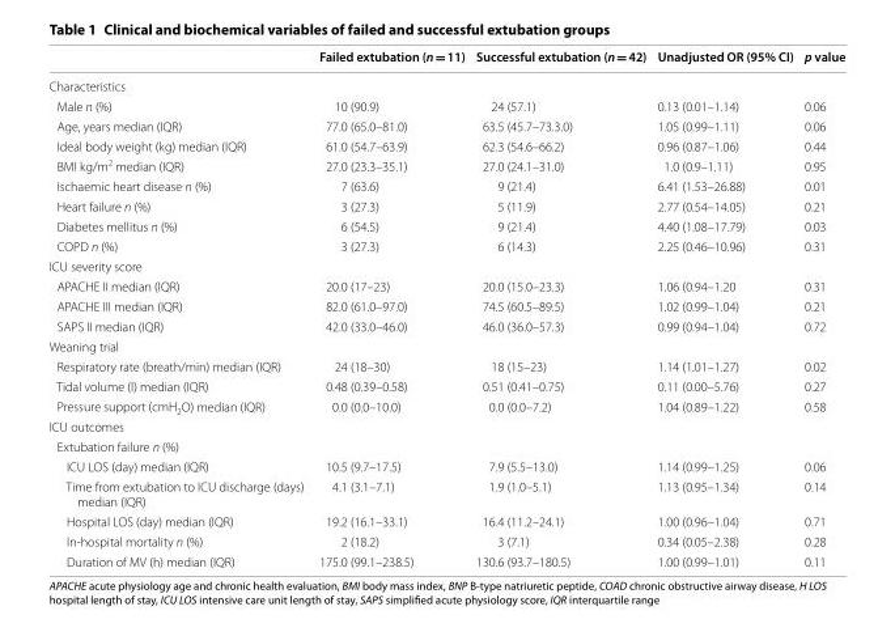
<table><thead><tr><td></td><td>Failed extubation (n = 11)</td><td>Successful extubation (n = 42)</td><td>Unadjusted OR (95% CI)</td><td>p value</td></tr></thead><tbody><tr><td colspan="5">Characteristics</td></tr><tr><td>Male n (%)</td><td>10 (90.9)</td><td>24 (57.1)</td><td>0.13 (0.01–1.14)</td><td>0.06</td></tr><tr><td>Age, years median (IQR)</td><td>77.0 (65.0–81.0)</td><td>63.5 (45.7–73.3.0)</td><td>1.05 (0.99–1.11)</td><td>0.06</td></tr><tr><td>Ideal body weight (kg) median (IQR)</td><td>61.0 (54.7–63.9)</td><td>62.3 (54.6–66.2)</td><td>0.96 (0.87–1.06)</td><td>0.44</td></tr><tr><td>BMI kg/m<sup>2</sup> median (IQR)</td><td>27.0 (23.3–35.1)</td><td>27.0 (24.1–31.0)</td><td>1.0 (0.9–1.11)</td><td>0.95</td></tr><tr><td>Ischaemic heart disease n (%)</td><td>7 (63.6)</td><td>9 (21.4)</td><td>6.41 (1.53–26.88)</td><td>0.01</td></tr><tr><td>Heart failure n (%)</td><td>3 (27.3)</td><td>5 (11.9)</td><td>2.77 (0.54–14.05)</td><td>0.21</td></tr><tr><td>Diabetes mellitus n (%)</td><td>6 (54.5)</td><td>9 (21.4)</td><td>4.40 (1.08–17.79)</td><td>0.03</td></tr><tr><td>COPD n (%)</td><td>3 (27.3)</td><td>6 (14.3)</td><td>2.25 (0.46–10.96)</td><td>0.31</td></tr><tr><td colspan="5">ICU severity score</td></tr><tr><td>APACHE II median (IQR)</td><td>20.0 (17–23)</td><td>20.0 (15.0–23.3)</td><td>1.06 (0.94–1.20</td><td>0.31</td></tr><tr><td>APACHE III median (IQR)</td><td>82.0 (61.0–97.0)</td><td>74.5 (60.5–89.5)</td><td>1.02 (0.99–1.04)</td><td>0.21</td></tr><tr><td>SAPS II median (IQR)</td><td>42.0 (33.0–46.0)</td><td>46.0 (36.0–57.3)</td><td>0.99 (0.94–1.04)</td><td>0.72</td></tr><tr><td colspan="5">Weaning trial</td></tr><tr><td>Respiratory rate (breath/min) median (IQR)</td><td>24 (18–30)</td><td>18 (15–23)</td><td>1.14 (1.01–1.27)</td><td>0.02</td></tr><tr><td>Tidal volume (l) median (IQR)</td><td>0.48 (0.39–0.58)</td><td>0.51 (0.41–0.75)</td><td>0.11 (0.00–5.76)</td><td>0.27</td></tr><tr><td>Pressure support (cmH<sub>2</sub>O) median (IQR)</td><td>0.0 (0.0–10.0)</td><td>0.0 (0.0–7.2)</td><td>1.04 (0.89–1.22)</td><td>0.58</td></tr><tr><td colspan="5">ICU outcomes</td></tr><tr><td colspan="5">Extubation failure n (%)</td></tr><tr><td>ICU LOS (day) median (IQR)</td><td>10.5 (9.7–17.5)</td><td>7.9 (5.5–13.0)</td><td>1.14 (0.99–1.25)</td><td>0.06</td></tr><tr><td>Time from extubation to ICU discharge (days) median (IQR)</td><td>4.1 (3.1–7.1)</td><td>1.9 (1.0–5.1)</td><td>1.13 (0.95–1.34)</td><td>0.14</td></tr><tr><td>Hospital LOS (day) median (IQR)</td><td>19.2 (16.1–33.1)</td><td>16.4 (11.2–24.1)</td><td>1.00 (0.96–1.04)</td><td>0.71</td></tr><tr><td>In-hospital mortality n (%)</td><td>2 (18.2)</td><td>3 (7.1)</td><td>0.34 (0.05–2.38)</td><td>0.28</td></tr><tr><td>Duration of MV (h) median (IQR)</td><td>175.0 (99.1–238.5)</td><td>130.6 (93.7–180.5)</td><td>1.00 (0.99–1.01)</td><td>0.11</td></tr></tbody></table>